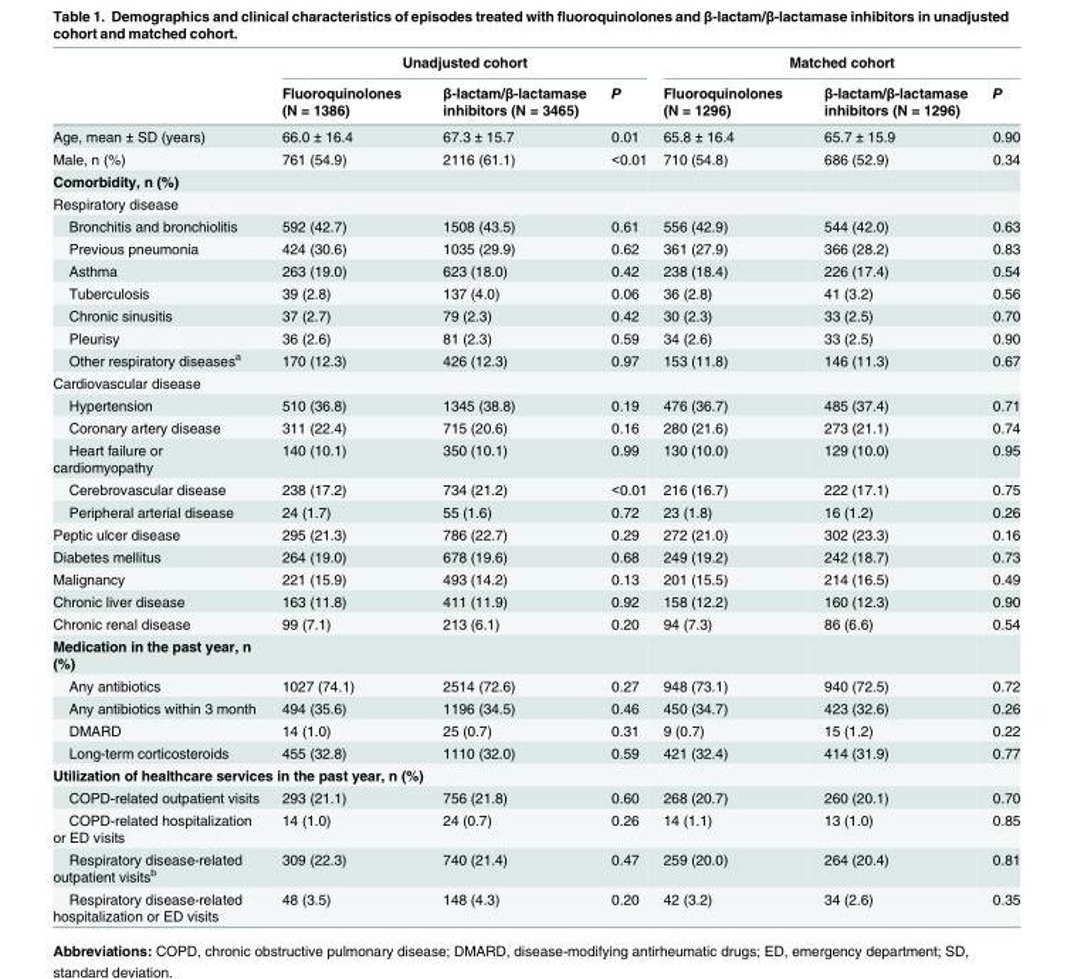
<table><thead><tr><td rowspan="2"></td><td colspan="3">Unadjusted cohort</td><td colspan="3">Matched cohort</td></tr><tr><td>Fluoroquinolones (N = 1386)</td><td>β-lactam/β-lactamase inhibitors (N = 3465)</td><td>P</td><td>Fluoroquinolones (N = 1296)</td><td>β-lactam/β-lactamase inhibitors (N = 1296)</td><td>P</td></tr></thead><tbody><tr><td>Age, mean ± SD (years)</td><td>66.0 ± 16.4</td><td>67.3 ± 15.7</td><td>0.01</td><td>65.8 ± 16.4</td><td>65.7 ± 15.9</td><td>0.90</td></tr><tr><td>Male, n (%)</td><td>761 (54.9)</td><td>2116 (61.1)</td><td>&lt;0.01</td><td>710 (54.8)</td><td>686 (52.9)</td><td>0.34</td></tr><tr><td colspan="7">Comorbidity, n (%)</td></tr><tr><td colspan="7">Respiratory disease</td></tr><tr><td>Bronchitis and bronchiolitis</td><td>592 (42.7)</td><td>1508 (43.5)</td><td>0.61</td><td>556 (42.9)</td><td>544 (42.0)</td><td>0.63</td></tr><tr><td>Previous pneumonia</td><td>424 (30.6)</td><td>1035 (29.9)</td><td>0.62</td><td>361 (27.9)</td><td>366 (28.2)</td><td>0.83</td></tr><tr><td>Asthma</td><td>263 (19.0)</td><td>623 (18.0)</td><td>0.42</td><td>238 (18.4)</td><td>226 (17.4)</td><td>0.54</td></tr><tr><td>Tuberculosis</td><td>39 (2.8)</td><td>137 (4.0)</td><td>0.06</td><td>36 (2.8)</td><td>41 (3.2)</td><td>0.56</td></tr><tr><td>Chronic sinusitis</td><td>37 (2.7)</td><td>79 (2.3)</td><td>0.42</td><td>30 (2.3)</td><td>33 (2.5)</td><td>0.70</td></tr><tr><td>Pleurisy</td><td>36 (2.6)</td><td>81 (2.3)</td><td>0.59</td><td>34 (2.6)</td><td>33 (2.5)</td><td>0.90</td></tr><tr><td>Other respiratory diseases<sup>a</sup></td><td>170 (12.3)</td><td>426 (12.3)</td><td>0.97</td><td>153 (11.8)</td><td>146 (11.3)</td><td>0.67</td></tr><tr><td colspan="7">Cardiovascular disease</td></tr><tr><td>Hypertension</td><td>510 (36.8)</td><td>1345 (38.8)</td><td>0.19</td><td>476 (36.7)</td><td>485 (37.4)</td><td>0.71</td></tr><tr><td>Coronary artery disease</td><td>311 (22.4)</td><td>715 (20.6)</td><td>0.16</td><td>280 (21.6)</td><td>273 (21.1)</td><td>0.74</td></tr><tr><td>Heart failure or cardiomyopathy</td><td>140 (10.1)</td><td>350 (10.1)</td><td>0.99</td><td>130 (10.0)</td><td>129 (10.0)</td><td>0.95</td></tr><tr><td>Cerebrovascular disease</td><td>238 (17.2)</td><td>734 (21.2)</td><td>&lt;0.01</td><td>216 (16.7)</td><td>222 (17.1)</td><td>0.75</td></tr><tr><td>Peripheral arterial disease</td><td>24 (1.7)</td><td>55 (1.6)</td><td>0.72</td><td>23 (1.8)</td><td>16 (1.2)</td><td>0.26</td></tr><tr><td>Peptic ulcer disease</td><td>295 (21.3)</td><td>786 (22.7)</td><td>0.29</td><td>272 (21.0)</td><td>302 (23.3)</td><td>0.16</td></tr><tr><td>Diabetes mellitus</td><td>264 (19.0)</td><td>678 (19.6)</td><td>0.68</td><td>249 (19.2)</td><td>242 (18.7)</td><td>0.73</td></tr><tr><td>Malignancy</td><td>221 (15.9)</td><td>493 (14.2)</td><td>0.13</td><td>201 (15.5)</td><td>214 (16.5)</td><td>0.49</td></tr><tr><td>Chronic liver disease</td><td>163 (11.8)</td><td>411 (11.9)</td><td>0.92</td><td>158 (12.2)</td><td>160 (12.3)</td><td>0.90</td></tr><tr><td>Chronic renal disease</td><td>99 (7.1)</td><td>213 (6.1)</td><td>0.20</td><td>94 (7.3)</td><td>86 (6.6)</td><td>0.54</td></tr><tr><td colspan="7">Medication in the past year, n (%)</td></tr><tr><td>Any antibiotics</td><td>1027 (74.1)</td><td>2514 (72.6)</td><td>0.27</td><td>948 (73.1)</td><td>940 (72.5)</td><td>0.72</td></tr><tr><td>Any antibiotics within 3 month</td><td>494 (35.6)</td><td>1196 (34.5)</td><td>0.46</td><td>450 (34.7)</td><td>423 (32.6)</td><td>0.26</td></tr><tr><td>DMARD</td><td>14 (1.0)</td><td>25 (0.7)</td><td>0.31</td><td>9 (0.7)</td><td>15 (1.2)</td><td>0.22</td></tr><tr><td>Long-term corticosteroids</td><td>455 (32.8)</td><td>1110 (32.0)</td><td>0.59</td><td>421 (32.4)</td><td>414 (31.9)</td><td>0.77</td></tr><tr><td colspan="7">Utilization of healthcare services in the past year, n (%)</td></tr><tr><td>COPD-related outpatient visits</td><td>293 (21.1)</td><td>756 (21.8)</td><td>0.60</td><td>268 (20.7)</td><td>260 (20.1)</td><td>0.70</td></tr><tr><td>COPD-related hospitalization or ED visits</td><td>14 (1.0)</td><td>24 (0.7)</td><td>0.26</td><td>14 (1.1)</td><td>13 (1.0)</td><td>0.85</td></tr><tr><td>Respiratory disease-related outpatient visits<sup>b</sup></td><td>309 (22.3)</td><td>740 (21.4)</td><td>0.47</td><td>259 (20.0)</td><td>264 (20.4)</td><td>0.81</td></tr><tr><td>Respiratory disease-related hospitalization or ED visits</td><td>48 (3.5)</td><td>148 (4.3)</td><td>0.20</td><td>42 (3.2)</td><td>34 (2.6)</td><td>0.35</td></tr></tbody></table>